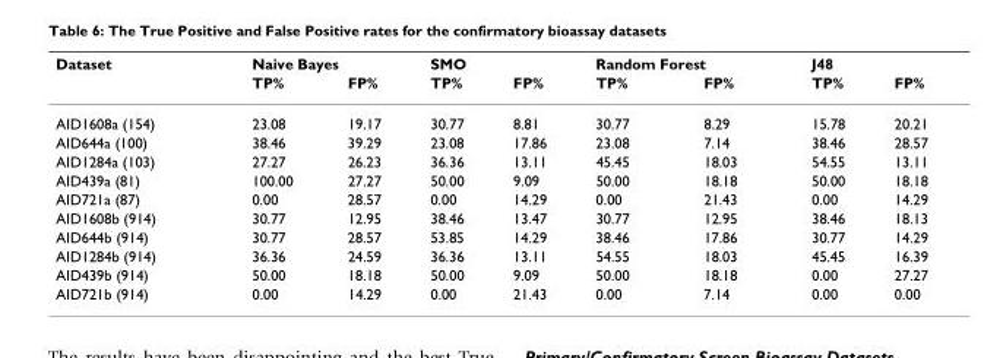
<table><thead><tr><td rowspan="2">Dataset</td><td colspan="2">Naive Bayes</td><td colspan="2">SMO</td><td colspan="2">Random Forest</td><td colspan="2">J48</td></tr><tr><td>TP%</td><td>FP%</td><td>TP%</td><td>FP%</td><td>TP%</td><td>FP%</td><td>TP%</td><td>FP%</td></tr></thead><tbody><tr><td>AID1608a (154)</td><td>23.08</td><td>19.17</td><td>30.77</td><td>8.81</td><td>30.77</td><td>8.29</td><td>15.78</td><td>20.21</td></tr><tr><td>AID644a (100)</td><td>38.46</td><td>39.29</td><td>23.08</td><td>17.86</td><td>23.08</td><td>7.14</td><td>38.46</td><td>28.57</td></tr><tr><td>AID1284a (103)</td><td>27.27</td><td>26.23</td><td>36.36</td><td>13.11</td><td>45.45</td><td>18.03</td><td>54.55</td><td>13.11</td></tr><tr><td>AID439a (81)</td><td>100.00</td><td>27.27</td><td>50.00</td><td>9.09</td><td>50.00</td><td>18.18</td><td>50.00</td><td>18.18</td></tr><tr><td>AID721a (87)</td><td>0.00</td><td>28.57</td><td>0.00</td><td>14.29</td><td>0.00</td><td>21.43</td><td>0.00</td><td>14.29</td></tr><tr><td>AID1608b (914)</td><td>30.77</td><td>12.95</td><td>38.46</td><td>13.47</td><td>30.77</td><td>12.95</td><td>38.46</td><td>18.13</td></tr><tr><td>AID644b (914)</td><td>30.77</td><td>28.57</td><td>53.85</td><td>14.29</td><td>38.46</td><td>17.86</td><td>30.77</td><td>14.29</td></tr><tr><td>AID1284b (914)</td><td>36.36</td><td>24.59</td><td>36.36</td><td>13.11</td><td>54.55</td><td>18.03</td><td>45.45</td><td>16.39</td></tr><tr><td>AID439b (914)</td><td>50.00</td><td>18.18</td><td>50.00</td><td>9.09</td><td>50.00</td><td>18.18</td><td>0.00</td><td>27.27</td></tr><tr><td>AID721b (914)</td><td>0.00</td><td>14.29</td><td>0.00</td><td>21.43</td><td>0.00</td><td>7.14</td><td>0.00</td><td>0.00</td></tr></tbody></table>